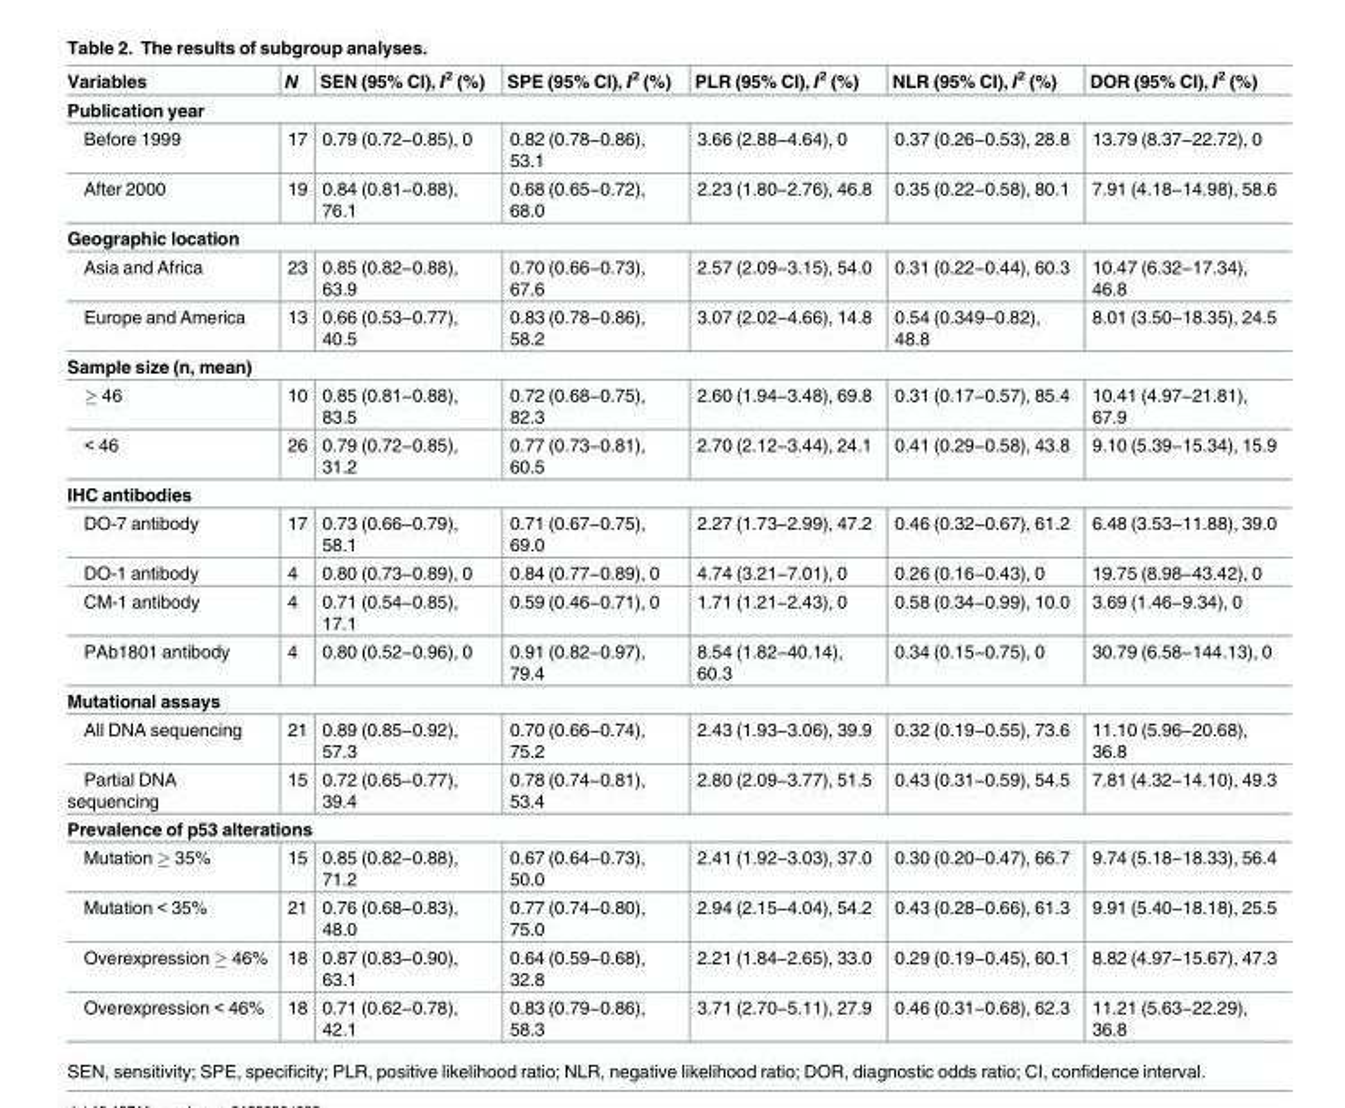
<table><thead><tr><td>Variables</td><td>N</td><td>SEN (95% CI), I<sup>2</sup> (%)</td><td>SPE (95% CI), I<sup>2</sup> (%)</td><td>PLR (95% CI), I<sup>2</sup> (%)</td><td>NLR (95% CI), I<sup>2</sup> (%)</td><td>DOR (95% CI), I<sup>2</sup> (%)</td></tr></thead><tbody><tr><td colspan="7">Publication year</td></tr><tr><td>Before 1999</td><td>17</td><td>0.79 (0.72−0.85), 0</td><td>0.82 (0.78−0.86), 53.1</td><td>3.66 (2.88−4.64), 0</td><td>0.37 (0.26−0.53), 28.8</td><td>13.79 (8.37−22.72), 0</td></tr><tr><td>After 2000</td><td>19</td><td>0.84 (0.81−0.88), 76.1</td><td>0.68 (0.65−0.72), 68.0</td><td>2.23 (1.80−2.76), 46.8</td><td>0.35 (0.22−0.58), 80.1</td><td>7.91 (4.18−14.98), 58.6</td></tr><tr><td colspan="7">Geographic location</td></tr><tr><td>Asia and Africa</td><td>23</td><td>0.85 (0.82−0.88), 63.9</td><td>0.70 (0.66−0.73), 67.6</td><td>2.57 (2.09−3.15), 54.0</td><td>0.31 (0.22−0.44), 60.3</td><td>10.47 (6.32−17.34), 46.8</td></tr><tr><td>Europe and America</td><td>13</td><td>0.66 (0.53−0.77), 40.5</td><td>0.83 (0.78−0.86), 58.2</td><td>3.07 (2.02−4.66), 14.8</td><td>0.54 (0.349−0.82), 48.8</td><td>8.01 (3.50−18.35), 24.5</td></tr><tr><td colspan="7">Sample size (n, mean)</td></tr><tr><td>≥ 46</td><td>10</td><td>0.85 (0.81−0.88), 83.5</td><td>0.72 (0.68−0.75), 82.3</td><td>2.60 (1.94−3.48), 69.8</td><td>0.31 (0.17−0.57), 85.4</td><td>10.41 (4.97−21.81), 67.9</td></tr><tr><td>&lt; 46</td><td>26</td><td>0.79 (0.72−0.85), 31.2</td><td>0.77 (0.73−0.81), 60.5</td><td>2.70 (2.12−3.44), 24.1</td><td>0.41 (0.29−0.58), 43.8</td><td>9.10 (5.39−15.34), 15.9</td></tr><tr><td colspan="7">IHC antibodies</td></tr><tr><td>DO-7 antibody</td><td>17</td><td>0.73 (0.66−0.79), 58.1</td><td>0.71 (0.67−0.75), 69.0</td><td>2.27 (1.73−2.99), 47.2</td><td>0.46 (0.32−0.67), 61.2</td><td>6.48 (3.53−11.88), 39.0</td></tr><tr><td>DO-1 antibody</td><td>4</td><td>0.80 (0.73−0.89), 0</td><td>0.84 (0.77−0.89), 0</td><td>4.74 (3.21−7.01), 0</td><td>0.26 (0.16−0.43), 0</td><td>19.75 (8.98−43.42), 0</td></tr><tr><td>CM-1 antibody</td><td>4</td><td>0.71 (0.54−0.85), 17.1</td><td>0.59 (0.46−0.71), 0</td><td>1.71 (1.21−2.43), 0</td><td>0.58 (0.34−0.99), 10.0</td><td>3.69 (1.46−9.34), 0</td></tr><tr><td>PAb1801 antibody</td><td>4</td><td>0.80 (0.52−0.96), 0</td><td>0.91 (0.82−0.97), 79.4</td><td>8.54 (1.82−40.14), 60.3</td><td>0.34 (0.15−0.75), 0</td><td>30.79 (6.58−144.13), 0</td></tr><tr><td colspan="7">Mutational assays</td></tr><tr><td>All DNA sequencing</td><td>21</td><td>0.89 (0.85−0.92), 57.3</td><td>0.70 (0.66−0.74), 75.2</td><td>2.43 (1.93−3.06), 39.9</td><td>0.32 (0.19−0.55), 73.6</td><td>11.10 (5.96−20.68), 36.8</td></tr><tr><td>Partial DNA sequencing</td><td>15</td><td>0.72 (0.65−0.77), 39.4</td><td>0.78 (0.74−0.81), 53.4</td><td>2.80 (2.09−3.77), 51.5</td><td>0.43 (0.31−0.59), 54.5</td><td>7.81 (4.32−14.10), 49.3</td></tr><tr><td colspan="7">Prevalence of p53 alterations</td></tr><tr><td>Mutation ≥ 35%</td><td>15</td><td>0.85 (0.82−0.88), 71.2</td><td>0.67 (0.64−0.73), 50.0</td><td>2.41 (1.92−3.03), 37.0</td><td>0.30 (0.20−0.47), 66.7</td><td>9.74 (5.18−18.33), 56.4</td></tr><tr><td>Mutation &lt; 35%</td><td>21</td><td>0.76 (0.68−0.83), 48.0</td><td>0.77 (0.74−0.80), 75.0</td><td>2.94 (2.15−4.04), 54.2</td><td>0.43 (0.28−0.66), 61.3</td><td>9.91 (5.40−18.18), 25.5</td></tr><tr><td>Overexpression ≥ 46%</td><td>18</td><td>0.87 (0.83−0.90), 63.1</td><td>0.64 (0.59−0.68), 32.8</td><td>2.21 (1.84−2.65), 33.0</td><td>0.29 (0.19−0.45), 60.1</td><td>8.82 (4.97−15.67), 47.3</td></tr><tr><td>Overexpression &lt; 46%</td><td>18</td><td>0.71 (0.62−0.78), 42.1</td><td>0.83 (0.79−0.86), 58.3</td><td>3.71 (2.70−5.11), 27.9</td><td>0.46 (0.31−0.68), 62.3</td><td>11.21 (5.63−22.29), 36.8</td></tr></tbody></table>